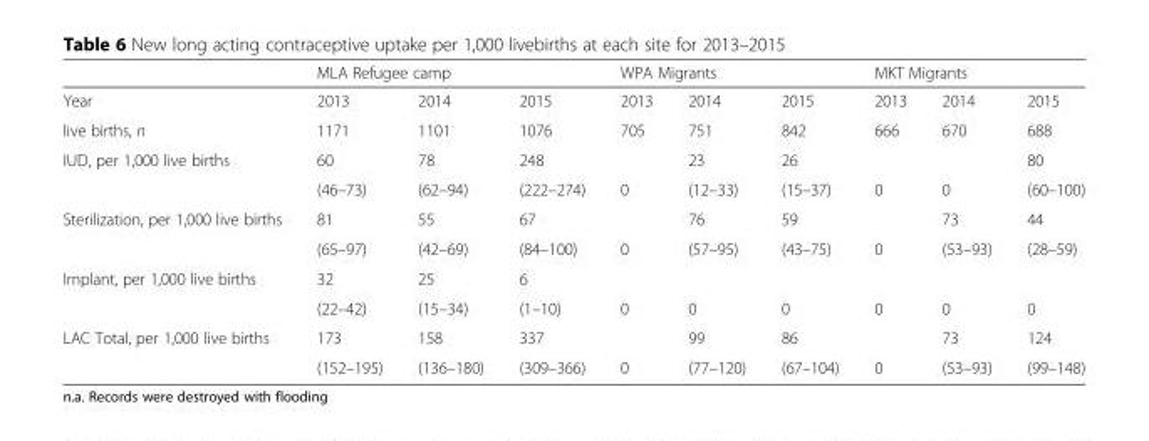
<table><thead><tr><td rowspan="2">Year</td><td colspan="3">MLA Refugee camp</td><td colspan="3">WPA Migrants</td><td colspan="3">MKT Migrants</td></tr><tr><td>2013</td><td>2014</td><td>2015</td><td>2013</td><td>2014</td><td>2015</td><td>2013</td><td>2014</td><td>2015</td></tr></thead><tbody><tr><td>live births, n</td><td>1171</td><td>1101</td><td>1076</td><td>705</td><td>751</td><td>842</td><td>666</td><td>670</td><td>688</td></tr><tr><td rowspan="2">IUD, per 1,000 live births</td><td>60</td><td>78</td><td>248</td><td></td><td>23</td><td>26</td><td></td><td></td><td>80</td></tr><tr><td>(46–73)</td><td>(62–94)</td><td>(222–274)</td><td>0</td><td>(12–33)</td><td>(15–37)</td><td>0</td><td>0</td><td>(60–100)</td></tr><tr><td rowspan="2">Sterilization, per 1,000 live births</td><td>81</td><td>55</td><td>67</td><td></td><td>76</td><td>59</td><td></td><td>73</td><td>44</td></tr><tr><td>(65–97)</td><td>(42–69)</td><td>(84–100)</td><td>0</td><td>(57–95)</td><td>(43–75)</td><td>0</td><td>(53–93)</td><td>(28–59)</td></tr><tr><td rowspan="2">Implant, per 1,000 live births</td><td>32</td><td>25</td><td>6</td><td></td><td></td><td></td><td></td><td></td><td></td></tr><tr><td>(22–42)</td><td>(15–34)</td><td>(1–10)</td><td>0</td><td>0</td><td>0</td><td>0</td><td>0</td><td>0</td></tr><tr><td rowspan="2">LAC Total, per 1,000 live births</td><td>173</td><td>158</td><td>337</td><td></td><td>99</td><td>86</td><td></td><td>73</td><td>124</td></tr><tr><td>(152–195)</td><td>(136–180)</td><td>(309–366)</td><td>0</td><td>(77–120)</td><td>(67–104)</td><td>0</td><td>(53–93)</td><td>(99–148)</td></tr></tbody></table>